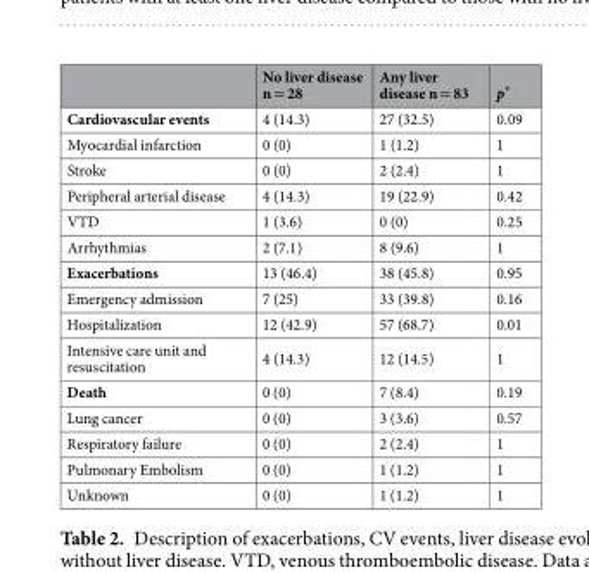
<table><thead><tr><td></td><td>No liver disease n = 28</td><td>Any liver disease n = 83</td><td>p*</td></tr></thead><tbody><tr><td>Cardiovascular events</td><td>4 (14.3)</td><td>27 (32.5)</td><td>0.09</td></tr><tr><td>Myocardial infarction</td><td>0 (0)</td><td>1 (1.2)</td><td>1</td></tr><tr><td>Stroke</td><td>0 (0)</td><td>2 (2.4)</td><td>1</td></tr><tr><td>Peripheral arterial disease</td><td>4 (14.3)</td><td>19 (22.9)</td><td>0.42</td></tr><tr><td>VTD</td><td>1 (3.6)</td><td>0 (0)</td><td>0.25</td></tr><tr><td>Arrhythmias</td><td>2 (7.1)</td><td>8 (9.6)</td><td>1</td></tr><tr><td>Exacerbations</td><td>13 (46.4)</td><td>38 (45.8)</td><td>0.95</td></tr><tr><td>Emergency admission</td><td>7 (25)</td><td>33 (39.8)</td><td>0.16</td></tr><tr><td>Hospitalization</td><td>12 (42.9)</td><td>57 (68.7)</td><td>0.01</td></tr><tr><td>Intensive care unit and resuscitation</td><td>4 (14.3)</td><td>12 (14.5)</td><td>1</td></tr><tr><td>Death</td><td>0 (0)</td><td>7 (8.4)</td><td>0.19</td></tr><tr><td>Lung cancer</td><td>0 (0)</td><td>3 (3.6)</td><td>0.57</td></tr><tr><td>Respiratory failure</td><td>0 (0)</td><td>2 (2.4)</td><td>1</td></tr><tr><td>Pulmonary Embolism</td><td>0 (0)</td><td>1 (1.2)</td><td>1</td></tr><tr><td>Unknown</td><td>0 (0)</td><td>1 (1.2)</td><td>1</td></tr></tbody></table>